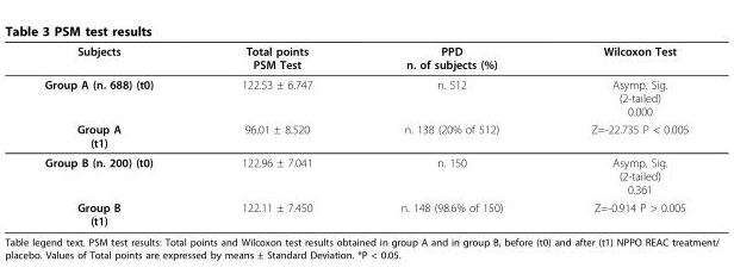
<table><thead><tr><td>Subjects</td><td>Total points PSM Test</td><td>PPD n. of subjects (%)</td><td>Wilcoxon Test</td></tr></thead><tbody><tr><td>Group A (n. 688) (t0)</td><td>122.53 ± 6.747</td><td>n. 512</td><td>Asymp. Sig. (2-tailed) 0.000</td></tr><tr><td>Group A (t1)</td><td>96.01 ± 8.520</td><td>n. 138 (20% of 512)</td><td>Z=-22.735 P &lt; 0.005</td></tr><tr><td>Group B (n. 200) (t0)</td><td>122.96 ± 7.041</td><td>n. 150</td><td>Asymp. Sig. (2-tailed) 0.361</td></tr><tr><td>Group B (t1)</td><td>122.11 ± 7.450</td><td>n. 148 (98.6% of 150)</td><td>Z=-0.914 P &gt; 0.005</td></tr></tbody></table>